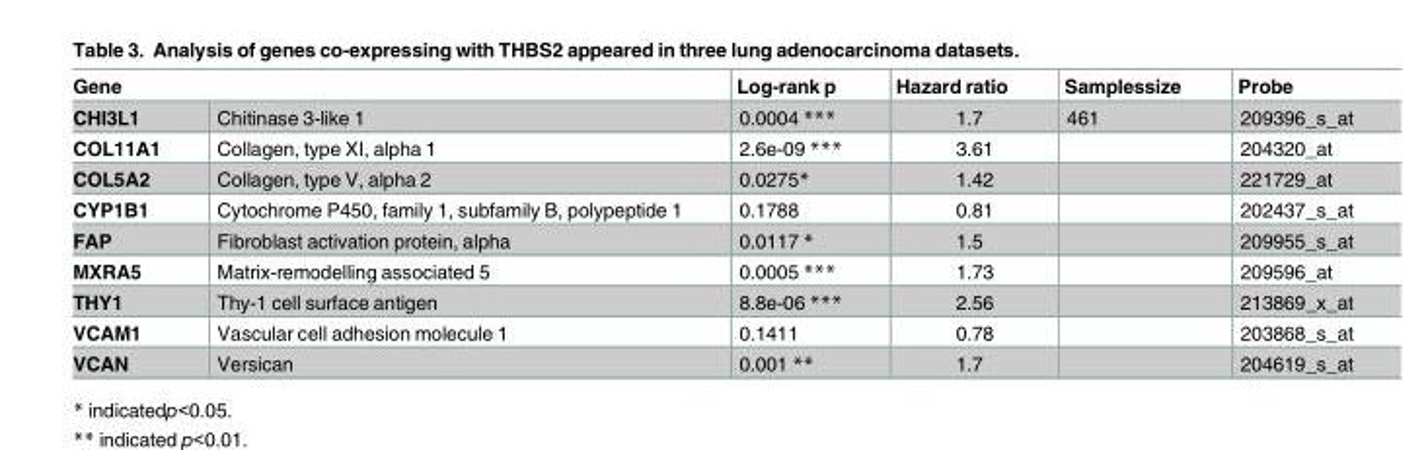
<table><thead><tr><td colspan="2">Gene</td><td rowspan="2">Log-rank p 0.0004 ***</td><td rowspan="2">Hazard ratio 1.7</td><td rowspan="2">Samplessize 461</td><td rowspan="2">Probe 209396_s_at</td></tr><tr><td>CHI3L1</td><td>Chitinase 3-like 1</td></tr></thead><tbody><tr><td>COL11A1</td><td>Collagen, type XI, alpha 1</td><td>2.6e-09 ***</td><td>3.61</td><td></td><td>204320_at</td></tr><tr><td>COL5A2</td><td>Collagen, type V, alpha 2</td><td>0.0275*</td><td>1.42</td><td></td><td>221729_at</td></tr><tr><td>CYP1B1</td><td>Cytochrome P450, family 1, subfamily B, polypeptide 1</td><td>0.1788</td><td>0.81</td><td></td><td>202437_s_at</td></tr><tr><td>FAP</td><td>Fibroblast activation protein, alpha</td><td>0.0117 *</td><td>1.5</td><td></td><td>209955_s_at</td></tr><tr><td>MXRA5</td><td>Matrix-remodelling associated 5</td><td>0.0005 ***</td><td>1.73</td><td></td><td>209596_at</td></tr><tr><td>THY1</td><td>Thy-1 cell surface antigen</td><td>8.8e-06 ***</td><td>2.56</td><td></td><td>213869_x_at</td></tr><tr><td>VCAM1</td><td>Vascular cell adhesion molecule 1</td><td>0.1411</td><td>0.78</td><td></td><td>203868_s_at</td></tr><tr><td>VCAN</td><td>Versican</td><td>0.001 **</td><td>1.7</td><td></td><td>204619_s_at</td></tr></tbody></table>